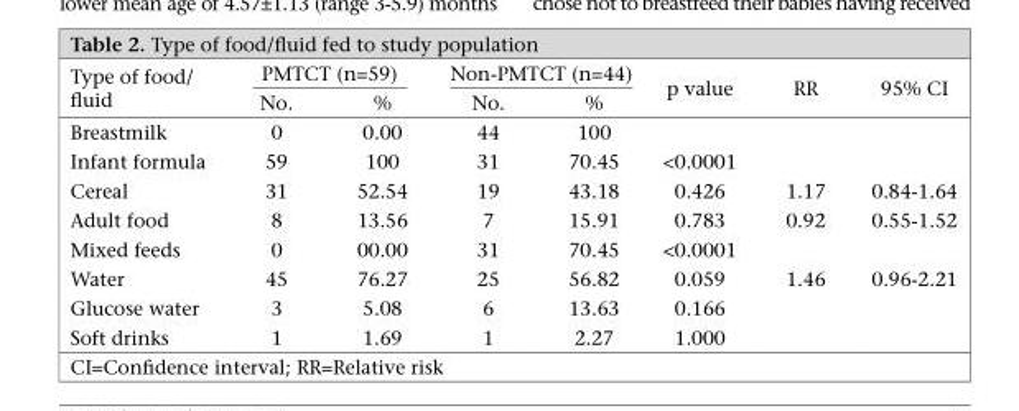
<table><thead><tr><td rowspan="2">Type of food/ fluid</td><td colspan="2">PMTCT (n=59)</td><td colspan="2">Non-PMTCT (n=44)</td><td rowspan="2">p value</td><td rowspan="2">RR</td><td rowspan="2">95% CI</td></tr><tr><td>No.</td><td>%</td><td>No.</td><td>%</td></tr></thead><tbody><tr><td>Breastmilk</td><td>0</td><td>0.00</td><td>44</td><td>100</td><td></td><td></td><td></td></tr><tr><td>Infant formula</td><td>59</td><td>100</td><td>31</td><td>70.45</td><td>&lt;0.0001</td><td></td><td></td></tr><tr><td>Cereal</td><td>31</td><td>52.54</td><td>19</td><td>43.18</td><td>0.426</td><td>1.17</td><td>0.84-1.64</td></tr><tr><td>Adult food</td><td>8</td><td>13.56</td><td>7</td><td>15.91</td><td>0.783</td><td>0.92</td><td>0.55-1.52</td></tr><tr><td>Mixed feeds</td><td>0</td><td>00.00</td><td>31</td><td>70.45</td><td>&lt;0.0001</td><td></td><td></td></tr><tr><td>Water</td><td>45</td><td>76.27</td><td>25</td><td>56.82</td><td>0.059</td><td>1.46</td><td>0.96-2.21</td></tr><tr><td>Glucose water</td><td>3</td><td>5.08</td><td>6</td><td>13.63</td><td>0.166</td><td></td><td></td></tr><tr><td>Soft drinks</td><td>1</td><td>1.69</td><td>1</td><td>2.27</td><td>1.000</td><td></td><td></td></tr></tbody></table>